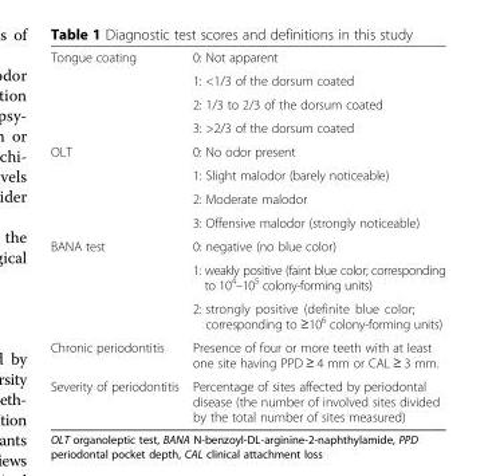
<table><tbody><tr><td rowspan="4">Tongue coating</td><td>0: Not apparent</td></tr><tr><td>1: &lt;1/3 of the dorsum coated</td></tr><tr><td>2: 1/3 to 2/3 of the dorsum coated</td></tr><tr><td>3: &gt;2/3 of the dorsum coated</td></tr><tr><td rowspan="4">OLT</td><td>0: No odor present</td></tr><tr><td>1: Slight malodor (barely noticeable)</td></tr><tr><td>2: Moderate malodor</td></tr><tr><td>3: Offensive malodor (strongly noticeable)</td></tr><tr><td rowspan="3">BANA test</td><td>0: negative (no blue color)</td></tr><tr><td>1: weakly positive (faint blue color; corresponding to 10<sup>4</sup>–10<sup>5</sup> colony-forming units)</td></tr><tr><td>2: strongly positive (definite blue color; corresponding to ≥10<sup>6</sup> colony-forming units)</td></tr><tr><td>Chronic periodontitis</td><td>Presence of four or more teeth with at least one site having PPD ≥ 4 mm or CAL ≥ 3 mm.</td></tr><tr><td>Severity of periodontitis</td><td>Percentage of sites affected by periodontal disease (the number of involved sites divided by the total number of sites measured)</td></tr></tbody></table>